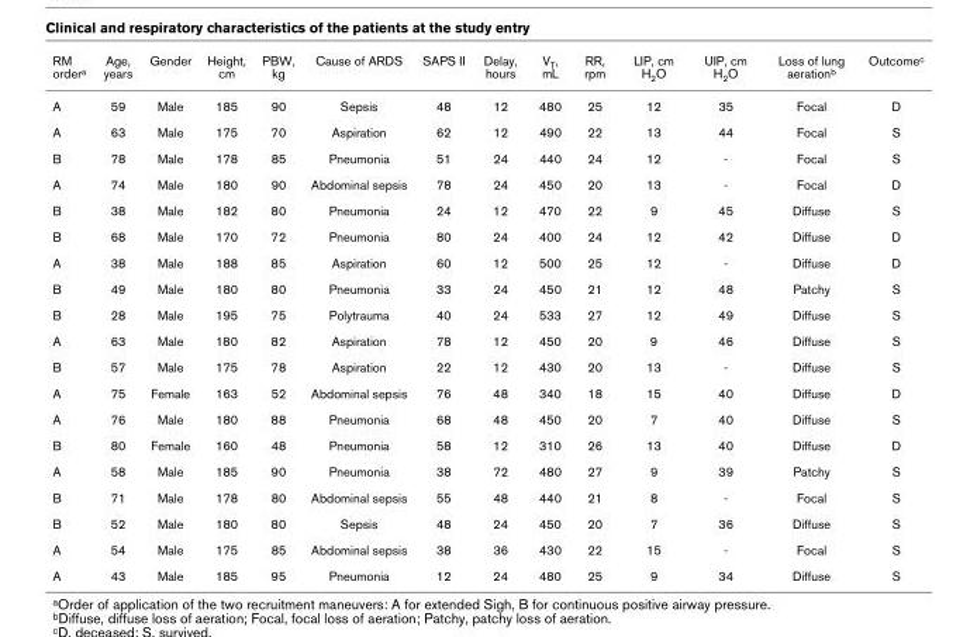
<table><thead><tr><td>RM order<sup>a</sup></td><td>Age, years</td><td>Gender</td><td>Height, cm</td><td>PBW, kg</td><td>Cause of ARDS</td><td>SAPS II</td><td>Delay, hours</td><td>V<sub>T</sub>, mL</td><td>RR, rpm</td><td>LIP, cm H<sub>2</sub>O</td><td>UIP, cm H<sub>2</sub>O</td><td>Loss of lung aeration<sup>b</sup></td><td>Outcome<sup>c</sup></td></tr></thead><tbody><tr><td>A</td><td>59</td><td>Male</td><td>185</td><td>90</td><td>Sepsis</td><td>48</td><td>12</td><td>480</td><td>25</td><td>12</td><td>35</td><td>Focal</td><td>D</td></tr><tr><td>A</td><td>63</td><td>Male</td><td>175</td><td>70</td><td>Aspiration</td><td>62</td><td>12</td><td>490</td><td>22</td><td>13</td><td>44</td><td>Focal</td><td>S</td></tr><tr><td>B</td><td>78</td><td>Male</td><td>178</td><td>85</td><td>Pneumonia</td><td>51</td><td>24</td><td>440</td><td>24</td><td>12</td><td>-</td><td>Focal</td><td>S</td></tr><tr><td>A</td><td>74</td><td>Male</td><td>180</td><td>90</td><td>Abdominal sepsis</td><td>78</td><td>24</td><td>450</td><td>20</td><td>13</td><td>-</td><td>Focal</td><td>D</td></tr><tr><td>B</td><td>38</td><td>Male</td><td>182</td><td>80</td><td>Pneumonia</td><td>24</td><td>12</td><td>470</td><td>22</td><td>9</td><td>45</td><td>Diffuse</td><td>S</td></tr><tr><td>B</td><td>68</td><td>Male</td><td>170</td><td>72</td><td>Pneumonia</td><td>80</td><td>24</td><td>400</td><td>24</td><td>12</td><td>42</td><td>Diffuse</td><td>D</td></tr><tr><td>A</td><td>38</td><td>Male</td><td>188</td><td>85</td><td>Aspiration</td><td>60</td><td>12</td><td>500</td><td>25</td><td>12</td><td>-</td><td>Diffuse</td><td>D</td></tr><tr><td>B</td><td>49</td><td>Male</td><td>180</td><td>80</td><td>Pneumonia</td><td>33</td><td>24</td><td>450</td><td>21</td><td>12</td><td>48</td><td>Patchy</td><td>S</td></tr><tr><td>B</td><td>28</td><td>Male</td><td>195</td><td>75</td><td>Polytrauma</td><td>40</td><td>24</td><td>533</td><td>27</td><td>12</td><td>49</td><td>Diffuse</td><td>S</td></tr><tr><td>A</td><td>63</td><td>Male</td><td>180</td><td>82</td><td>Aspiration</td><td>78</td><td>12</td><td>450</td><td>20</td><td>9</td><td>46</td><td>Diffuse</td><td>S</td></tr><tr><td>B</td><td>57</td><td>Male</td><td>175</td><td>78</td><td>Aspiration</td><td>22</td><td>12</td><td>430</td><td>20</td><td>13</td><td>-</td><td>Diffuse</td><td>S</td></tr><tr><td>A</td><td>75</td><td>Female</td><td>163</td><td>52</td><td>Abdominal sepsis</td><td>76</td><td>48</td><td>340</td><td>18</td><td>15</td><td>40</td><td>Diffuse</td><td>D</td></tr><tr><td>A</td><td>76</td><td>Male</td><td>180</td><td>88</td><td>Pneumonia</td><td>68</td><td>48</td><td>450</td><td>20</td><td>7</td><td>40</td><td>Diffuse</td><td>S</td></tr><tr><td>B</td><td>80</td><td>Female</td><td>160</td><td>48</td><td>Pneumonia</td><td>58</td><td>12</td><td>310</td><td>26</td><td>13</td><td>40</td><td>Diffuse</td><td>D</td></tr><tr><td>A</td><td>58</td><td>Male</td><td>185</td><td>90</td><td>Pneumonia</td><td>38</td><td>72</td><td>480</td><td>27</td><td>9</td><td>39</td><td>Patchy</td><td>S</td></tr><tr><td>B</td><td>71</td><td>Male</td><td>178</td><td>80</td><td>Abdominal sepsis</td><td>55</td><td>48</td><td>440</td><td>21</td><td>8</td><td>-</td><td>Focal</td><td>S</td></tr><tr><td>B</td><td>52</td><td>Male</td><td>180</td><td>80</td><td>Sepsis</td><td>48</td><td>24</td><td>450</td><td>20</td><td>7</td><td>36</td><td>Diffuse</td><td>S</td></tr><tr><td>A</td><td>54</td><td>Male</td><td>175</td><td>85</td><td>Abdominal sepsis</td><td>38</td><td>36</td><td>430</td><td>22</td><td>15</td><td>-</td><td>Focal</td><td>S</td></tr><tr><td>A</td><td>43</td><td>Male</td><td>185</td><td>95</td><td>Pneumonia</td><td>12</td><td>24</td><td>480</td><td>25</td><td>9</td><td>34</td><td>Diffuse</td><td>S</td></tr></tbody></table>